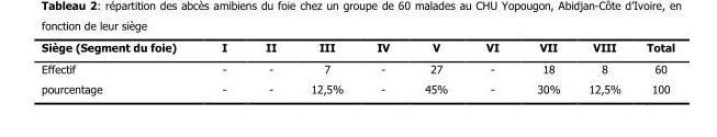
<table><thead><tr><td>Siège (Segment du foie)</td><td>I</td><td>II</td><td>III</td><td>IV</td><td>V</td><td>VI</td><td>VII</td><td>VIII</td><td>Total</td></tr></thead><tbody><tr><td>Effectif</td><td>-</td><td>-</td><td>7</td><td>-</td><td>27</td><td>-</td><td>18</td><td>8</td><td>60</td></tr><tr><td>pourcentage</td><td>-</td><td>-</td><td>12,5%</td><td>-</td><td>45%</td><td>-</td><td>30%</td><td>12,5%</td><td>100</td></tr></tbody></table>